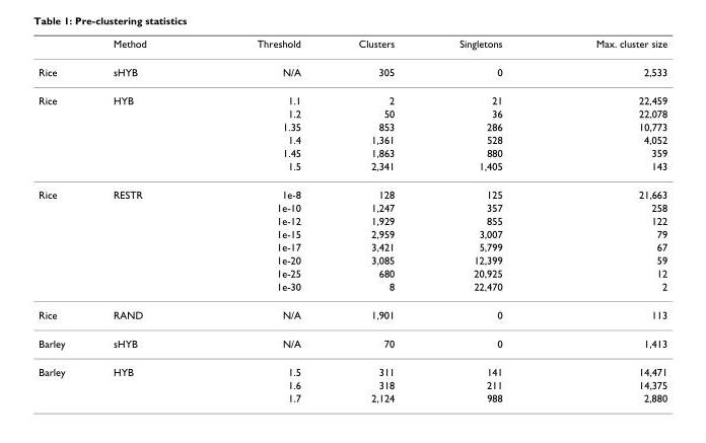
<table><thead><tr><td></td><td>Method</td><td>Threshold</td><td>Clusters</td><td>Singletons</td><td>Max. cluster size</td></tr></thead><tbody><tr><td>Rice</td><td>sHYB</td><td>N/A</td><td>305</td><td>0</td><td>2,533</td></tr><tr><td rowspan="6">Rice</td><td>HYB</td><td>1.1</td><td>2</td><td>21</td><td>22,459</td></tr><tr><td></td><td>1.2</td><td>50</td><td>36</td><td>22,078</td></tr><tr><td></td><td>1.35</td><td>853</td><td>286</td><td>10,773</td></tr><tr><td></td><td>1.4</td><td>1,361</td><td>528</td><td>4,052</td></tr><tr><td></td><td>1.45</td><td>1,863</td><td>880</td><td>359</td></tr><tr><td></td><td>1.5</td><td>2,341</td><td>1,405</td><td>143</td></tr><tr><td rowspan="8">Rice</td><td>RESTR</td><td>1e-8</td><td>128</td><td>125</td><td>21,663</td></tr><tr><td></td><td>1e-10</td><td>1,247</td><td>357</td><td>258</td></tr><tr><td></td><td>1e-12</td><td>1,929</td><td>855</td><td>122</td></tr><tr><td></td><td>1e-15</td><td>2,959</td><td>3,007</td><td>79</td></tr><tr><td></td><td>1e-17</td><td>3,421</td><td>5,799</td><td>67</td></tr><tr><td></td><td>1e-20</td><td>3,085</td><td>12,399</td><td>59</td></tr><tr><td></td><td>1e-25</td><td>680</td><td>20,925</td><td>12</td></tr><tr><td></td><td>1e-30</td><td>8</td><td>22,470</td><td>2</td></tr><tr><td>Rice</td><td>RAND</td><td>N/A</td><td>1,901</td><td>0</td><td>113</td></tr><tr><td>Barley</td><td>sHYB</td><td>N/A</td><td>70</td><td>0</td><td>1,413</td></tr><tr><td rowspan="3">Barley</td><td>HYB</td><td>1.5</td><td>311</td><td>141</td><td>14,471</td></tr><tr><td></td><td>1.6</td><td>318</td><td>211</td><td>14,375</td></tr><tr><td></td><td>1.7</td><td>2,124</td><td>988</td><td>2,880</td></tr></tbody></table>